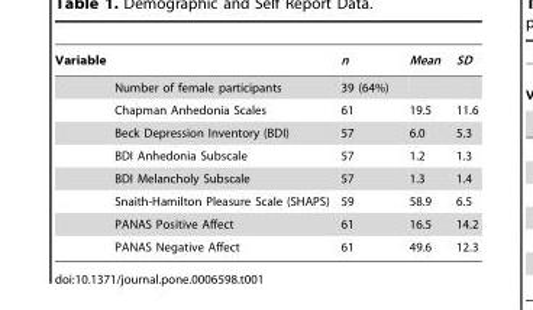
<table><thead><tr><td>Variable</td><td></td><td>n</td><td>Mean</td><td>SD</td></tr></thead><tbody><tr><td></td><td>Number of female participants</td><td>39 (64%)</td><td></td><td></td></tr><tr><td></td><td>Chapman Anhedonia Scales</td><td>61</td><td>19.5</td><td>11.6</td></tr><tr><td></td><td>Beck Depression Inventory (BDI)</td><td>57</td><td>6.0</td><td>5.3</td></tr><tr><td></td><td>BDI Anhedonia Subscale</td><td>57</td><td>1.2</td><td>1.3</td></tr><tr><td></td><td>BDI Melancholy Subscale</td><td>57</td><td>1.3</td><td>1.4</td></tr><tr><td></td><td>Snaith-Hamilton Pleasure Scale (SHAPS)</td><td>59</td><td>58.9</td><td>6.5</td></tr><tr><td></td><td>PANAS Positive Affect</td><td>61</td><td>16.5</td><td>14.2</td></tr><tr><td></td><td>PANAS Negative Affect</td><td>61</td><td>49.6</td><td>12.3</td></tr></tbody></table>